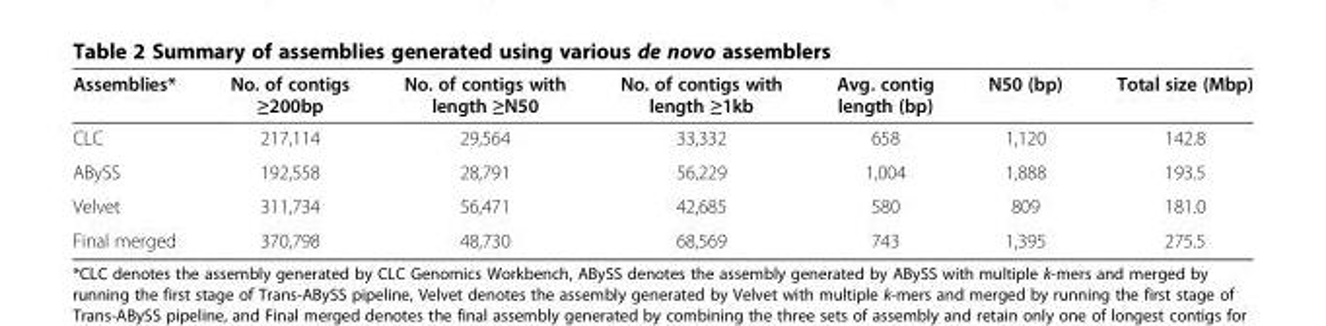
<table><thead><tr><td>Assemblies*</td><td>No. of contigs ≥200bp</td><td>No. of contigs with length ≥N50</td><td>No. of contigs with length ≥1kb</td><td>Avg. contig length (bp)</td><td>N50 (bp)</td><td>Total size (Mbp)</td></tr></thead><tbody><tr><td>CLC</td><td>217,114</td><td>29,564</td><td>33,332</td><td>658</td><td>1,120</td><td>142.8</td></tr><tr><td>ABySS</td><td>192,558</td><td>28,791</td><td>56,229</td><td>1,004</td><td>1,888</td><td>193.5</td></tr><tr><td>Velvet</td><td>311,734</td><td>56,471</td><td>42,685</td><td>580</td><td>809</td><td>181.0</td></tr><tr><td>Final merged</td><td>370,798</td><td>48,730</td><td>68,569</td><td>743</td><td>1,395</td><td>275.5</td></tr></tbody></table>